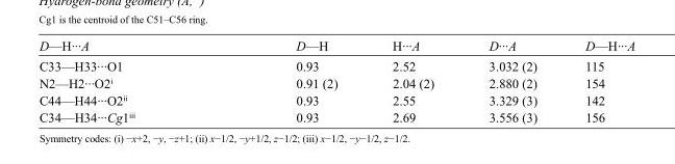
<table><tbody><tr><td>D—H···A</td><td>D—H</td><td>H···A</td><td>D···A</td><td>D—H···A</td></tr><tr><td>C33—H33···O1</td><td>0.93</td><td>2.52</td><td>3.032 (2)</td><td>115</td></tr><tr><td>N2—H2···O2<sup>i</sup></td><td>0.91 (2)</td><td>2.04 (2)</td><td>2.880 (2)</td><td>154</td></tr><tr><td>C44—H44···O2<sup>ii</sup></td><td>0.93</td><td>2.55</td><td>3.329 (3)</td><td>142</td></tr><tr><td>C34—H34···Cg1<sup>iii</sup></td><td>0.93</td><td>2.69</td><td>3.556 (3)</td><td>156</td></tr></tbody></table>